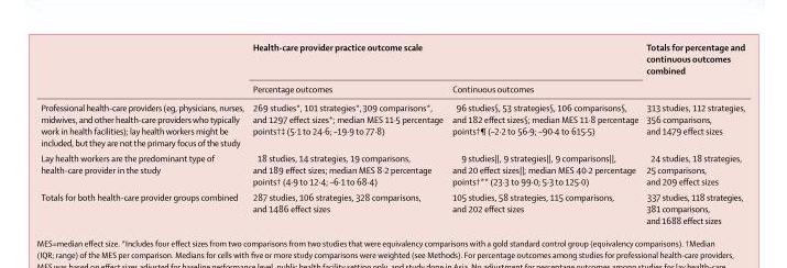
<table><thead><tr><td rowspan="2"></td><td colspan="2">Health-care provider practice outcome scale</td><td rowspan="2">Totals for percentage and continuous outcomes combined</td></tr><tr><td>Percentage outcomes</td><td>Continuous outcomes</td></tr></thead><tbody><tr><td>Professional health-care providers (eg, physicians, nurses, midwives, and other health-care providers who typically work in health facilities); lay health workers might be included, but they are not the primary focus of the study</td><td>269 studies*, 101 strategies*, 309 comparisons*, and 1297 effect sizes*; median MES 11·5 percentage points†‡ (5·1 to 24·6; –19·9 to 77·8)</td><td>96 studies§, 53 strategies§, 106 comparisons§, and 182 effect sizes§; median MES 11·8 percentage points†¶ (–2·2 to 56·9; –90·4 to 615·5)</td><td>313 studies, 112 strategies, 356 comparisons, and 1479 effect sizes</td></tr><tr><td>Lay health workers are the predominant type of health-care provider in the study</td><td>18 studies, 14 strategies, 19 comparisons, and 189 effect sizes; median MES 8·2 percentage points† (4·9 to 12·4; –6·1 to 68·4)</td><td>9 studies||, 9 strategies||, 9 comparisons||, and 20 effect sizes||; median MES 40·2 percentage points†** (23·3 to 99·0; 5·3 to 125·0)</td><td>24 studies, 18 strategies, 25 comparisons, and 209 effect sizes</td></tr><tr><td>Totals for both health-care provider groups combined</td><td>287 studies, 106 strategies, 328 comparisons, and 1486 effect sizes</td><td>105 studies, 58 strategies, 115 comparisons, and 202 effect sizes</td><td>337 studies, 118 strategies, 381 comparisons, and 1688 effect sizes</td></tr></tbody></table>